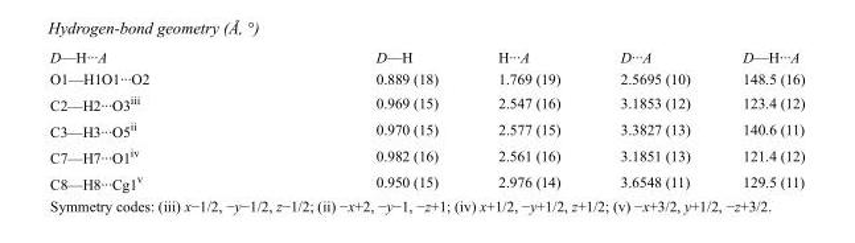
<table><tbody><tr><td>D—H···A</td><td>D—H</td><td>H···A</td><td>D···A</td><td>D—H···A</td></tr><tr><td>O1—H1O1···O2</td><td>0.889 (18)</td><td>1.769 (19)</td><td>2.5695 (10)</td><td>148.5 (16)</td></tr><tr><td>C2—H2···O3<sup>iii</sup></td><td>0.969 (15)</td><td>2.547 (16)</td><td>3.1853 (12)</td><td>123.4 (12)</td></tr><tr><td>C3—H3···O5<sup>ii</sup></td><td>0.970 (15)</td><td>2.577 (15)</td><td>3.3827 (13)</td><td>140.6 (11)</td></tr><tr><td>C7—H7···O1<sup>iv</sup></td><td>0.982 (16)</td><td>2.561 (16)</td><td>3.1851 (13)</td><td>121.4 (12)</td></tr><tr><td>C8—H8···Cg1<sup>v</sup></td><td>0.950 (15)</td><td>2.976 (14)</td><td>3.6548 (11)</td><td>129.5 (11)</td></tr></tbody></table>